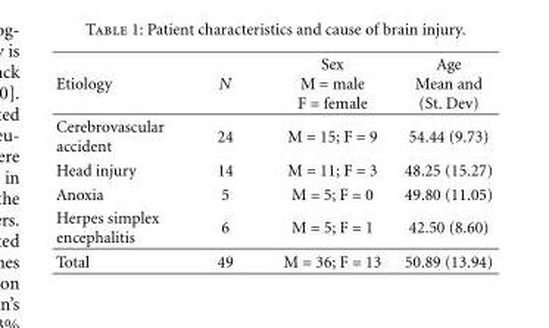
<table><thead><tr><td>Etiology</td><td>N</td><td>Sex M = male F = female</td><td>Age Mean and (St. Dev)</td></tr></thead><tbody><tr><td>Cerebrovascular accident</td><td>24</td><td>M = 15; F = 9</td><td>54.44 (9.73)</td></tr><tr><td>Head injury</td><td>14</td><td>M = 11; F = 3</td><td>48.25 (15.27)</td></tr><tr><td>Anoxia</td><td>5</td><td>M = 5; F = 0</td><td>49.80 (11.05)</td></tr><tr><td>Herpes simplex encephalitis</td><td>6</td><td>M = 5; F = 1</td><td>42.50 (8.60)</td></tr><tr><td>Total</td><td>49</td><td>M = 36; F = 13</td><td>50.89 (13.94)</td></tr></tbody></table>